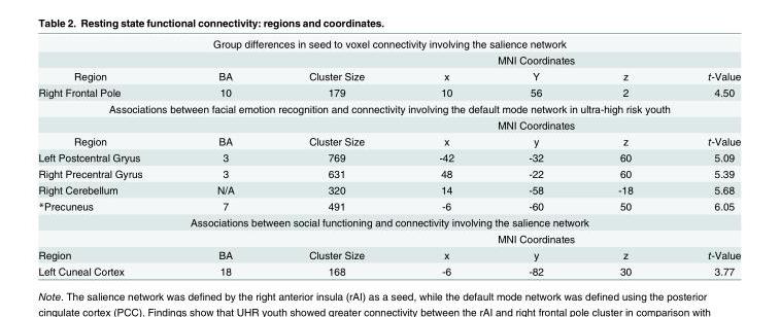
<table><tbody><tr><td colspan="7">Group differences in seed to voxel connectivity involving the salience network</td></tr><tr><td></td><td></td><td></td><td colspan="3">MNI Coordinates</td><td></td></tr><tr><td>Region</td><td>BA</td><td>Cluster Size</td><td>x</td><td>Y</td><td>z</td><td>t-Value</td></tr><tr><td>Right Frontal Pole</td><td>10</td><td>179</td><td>10</td><td>56</td><td>2</td><td>4.50</td></tr><tr><td colspan="7">Associations between facial emotion recognition and connectivity involving the default mode network in ultra-high risk youth</td></tr><tr><td></td><td></td><td></td><td colspan="3">MNI Coordinates</td><td></td></tr><tr><td>Region</td><td>BA</td><td>Cluster Size</td><td>x</td><td>y</td><td>z</td><td>t-Value</td></tr><tr><td>Left Postcentral Gryus</td><td>3</td><td>769</td><td>-42</td><td>-32</td><td>60</td><td>5.09</td></tr><tr><td>Right Precentral Gyrus</td><td>3</td><td>631</td><td>48</td><td>-22</td><td>60</td><td>5.39</td></tr><tr><td>Right Cerebellum</td><td>N/A</td><td>320</td><td>14</td><td>-58</td><td>-18</td><td>5.68</td></tr><tr><td>*Precuneus</td><td>7</td><td>491</td><td>-6</td><td>-60</td><td>50</td><td>6.05</td></tr><tr><td colspan="7">Associations between social functioning and connectivity involving the salience network</td></tr><tr><td></td><td></td><td></td><td colspan="3">MNI Coordinates</td><td></td></tr><tr><td>Region</td><td>BA</td><td>Cluster Size</td><td>x</td><td>y</td><td>z</td><td>t-Value</td></tr><tr><td>Left Cuneal Cortex</td><td>18</td><td>168</td><td>-6</td><td>-82</td><td>30</td><td>3.77</td></tr></tbody></table>